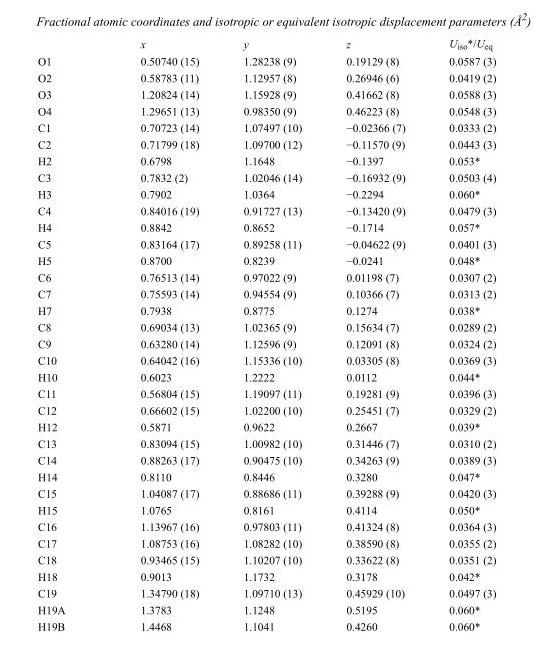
<table><thead><tr><td></td><td>x</td><td>y</td><td>z</td><td>U<sub>iso</sub>*/U<sub>eq</sub></td></tr></thead><tbody><tr><td>O1</td><td>0.50740 (15)</td><td>1.28238 (9)</td><td>0.19129 (8)</td><td>0.0587 (3)</td></tr><tr><td>O2</td><td>0.58783 (11)</td><td>1.12957 (8)</td><td>0.26946 (6)</td><td>0.0419 (2)</td></tr><tr><td>O3</td><td>1.20824 (14)</td><td>1.15928 (9)</td><td>0.41662 (8)</td><td>0.0588 (3)</td></tr><tr><td>O4</td><td>1.29651 (13)</td><td>0.98350 (9)</td><td>0.46223 (8)</td><td>0.0548 (3)</td></tr><tr><td>C1</td><td>0.70723 (14)</td><td>1.07497 (10)</td><td>−0.02366 (7)</td><td>0.0333 (2)</td></tr><tr><td>C2</td><td>0.71799 (18)</td><td>1.09700 (12)</td><td>−0.11570 (9)</td><td>0.0443 (3)</td></tr><tr><td>H2</td><td>0.6798</td><td>1.1648</td><td>−0.1397</td><td>0.053*</td></tr><tr><td>C3</td><td>0.7832 (2)</td><td>1.02046 (14)</td><td>−0.16932 (9)</td><td>0.0503 (4)</td></tr><tr><td>H3</td><td>0.7902</td><td>1.0364</td><td>−0.2294</td><td>0.060*</td></tr><tr><td>C4</td><td>0.84016 (19)</td><td>0.91727 (13)</td><td>−0.13420 (9)</td><td>0.0479 (3)</td></tr><tr><td>H4</td><td>0.8842</td><td>0.8652</td><td>−0.1714</td><td>0.057*</td></tr><tr><td>C5</td><td>0.83164 (17)</td><td>0.89258 (11)</td><td>−0.04622 (9)</td><td>0.0401 (3)</td></tr><tr><td>H5</td><td>0.8700</td><td>0.8239</td><td>−0.0241</td><td>0.048*</td></tr><tr><td>C6</td><td>0.76513 (14)</td><td>0.97022 (9)</td><td>0.01198 (7)</td><td>0.0307 (2)</td></tr><tr><td>C7</td><td>0.75593 (14)</td><td>0.94554 (9)</td><td>0.10366 (7)</td><td>0.0313 (2)</td></tr><tr><td>H7</td><td>0.7938</td><td>0.8775</td><td>0.1274</td><td>0.038*</td></tr><tr><td>C8</td><td>0.69034 (13)</td><td>1.02365 (9)</td><td>0.15634 (7)</td><td>0.0289 (2)</td></tr><tr><td>C9</td><td>0.63280 (14)</td><td>1.12596 (9)</td><td>0.12091 (8)</td><td>0.0324 (2)</td></tr><tr><td>C10</td><td>0.64042 (16)</td><td>1.15336 (10)</td><td>0.03305 (8)</td><td>0.0369 (3)</td></tr><tr><td>H10</td><td>0.6023</td><td>1.2222</td><td>0.0112</td><td>0.044*</td></tr><tr><td>C11</td><td>0.56804 (15)</td><td>1.19097 (11)</td><td>0.19281 (9)</td><td>0.0396 (3)</td></tr><tr><td>C12</td><td>0.66602 (15)</td><td>1.02200 (10)</td><td>0.25451 (7)</td><td>0.0329 (2)</td></tr><tr><td>H12</td><td>0.5871</td><td>0.9622</td><td>0.2667</td><td>0.039*</td></tr><tr><td>C13</td><td>0.83094 (15)</td><td>1.00982 (10)</td><td>0.31446 (7)</td><td>0.0310 (2)</td></tr><tr><td>C14</td><td>0.88263 (17)</td><td>0.90475 (10)</td><td>0.34263 (9)</td><td>0.0389 (3)</td></tr><tr><td>H14</td><td>0.8110</td><td>0.8446</td><td>0.3280</td><td>0.047*</td></tr><tr><td>C15</td><td>1.04087 (17)</td><td>0.88686 (11)</td><td>0.39288 (9)</td><td>0.0420 (3)</td></tr><tr><td>H15</td><td>1.0765</td><td>0.8161</td><td>0.4114</td><td>0.050*</td></tr><tr><td>C16</td><td>1.13967 (16)</td><td>0.97803 (11)</td><td>0.41324 (8)</td><td>0.0364 (3)</td></tr><tr><td>C17</td><td>1.08753 (16)</td><td>1.08282 (10)</td><td>0.38590 (8)</td><td>0.0355 (2)</td></tr><tr><td>C18</td><td>0.93465 (15)</td><td>1.10207 (10)</td><td>0.33622 (8)</td><td>0.0351 (2)</td></tr><tr><td>H18</td><td>0.9013</td><td>1.1732</td><td>0.3178</td><td>0.042*</td></tr><tr><td>C19</td><td>1.34790 (18)</td><td>1.09710 (13)</td><td>0.45929 (10)</td><td>0.0497 (3)</td></tr><tr><td>H19A</td><td>1.3783</td><td>1.1248</td><td>0.5195</td><td>0.060*</td></tr><tr><td>H19B</td><td>1.4468</td><td>1.1041</td><td>0.4260</td><td>0.060*</td></tr></tbody></table>